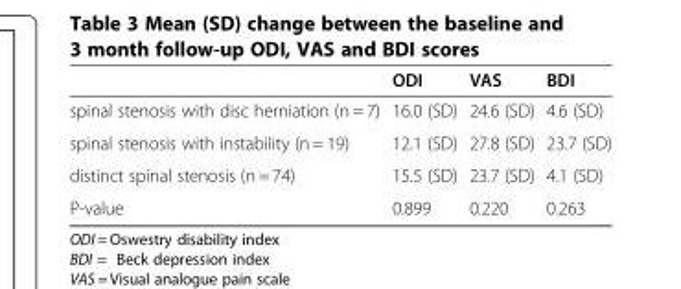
<table><thead><tr><td></td><td>ODI</td><td>VAS</td><td>BDI</td></tr></thead><tbody><tr><td>spinal stenosis with disc herniation (n = 7)</td><td>16.0 (SD)</td><td>24.6 (SD)</td><td>4.6 (SD)</td></tr><tr><td>spinal stenosis with instability (n = 19)</td><td>12.1 (SD)</td><td>27.8 (SD)</td><td>23.7 (SD)</td></tr><tr><td>distinct spinal stenosis (n = 74)</td><td>15.5 (SD)</td><td>23.7 (SD)</td><td>4.1 (SD)</td></tr><tr><td>P-value</td><td>0.899</td><td>0.220</td><td>0.263</td></tr></tbody></table>